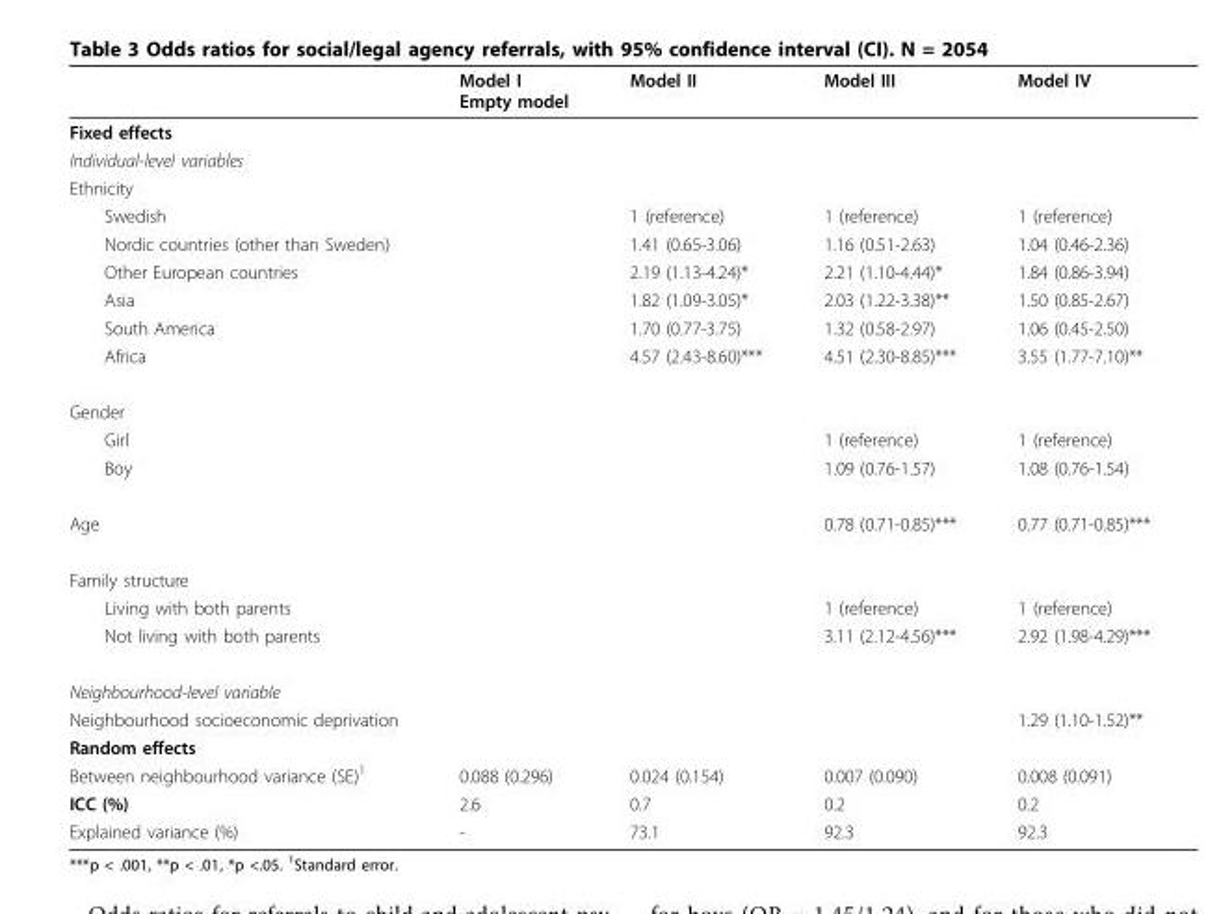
<table><thead><tr><td></td><td>Model I Empty model</td><td>Model II</td><td>Model III</td><td>Model IV</td></tr></thead><tbody><tr><td colspan="5">Fixed effects</td></tr><tr><td colspan="5">Individual-level variables</td></tr><tr><td colspan="5">Ethnicity</td></tr><tr><td>Swedish</td><td></td><td>1 (reference)</td><td>1 (reference)</td><td>1 (reference)</td></tr><tr><td>Nordic countries (other than Sweden)</td><td></td><td>1.41 (0.65-3.06)</td><td>1.16 (0.51-2.63)</td><td>1.04 (0.46-2.36)</td></tr><tr><td>Other European countries</td><td></td><td>2.19 (1.13-4.24)*</td><td>2.21 (1.10-4.44)*</td><td>1.84 (0.86-3.94)</td></tr><tr><td>Asia</td><td></td><td>1.82 (1.09-3.05)*</td><td>2.03 (1.22-3.38)**</td><td>1.50 (0.85-2.67)</td></tr><tr><td>South America</td><td></td><td>1.70 (0.77-3.75)</td><td>1.32 (0.58-2.97)</td><td>1.06 (0.45-2.50)</td></tr><tr><td>Africa</td><td></td><td>4.57 (2.43-8.60)***</td><td>4.51 (2.30-8.85)***</td><td>3.55 (1.77-7.10)**</td></tr><tr><td colspan="5">Gender</td></tr><tr><td>Girl</td><td></td><td></td><td>1 (reference)</td><td>1 (reference)</td></tr><tr><td>Boy</td><td></td><td></td><td>1.09 (0.76-1.57)</td><td>1.08 (0.76-1.54)</td></tr><tr><td>Age</td><td></td><td></td><td>0.78 (0.71-0.85)***</td><td>0.77 (0.71-0.85)***</td></tr><tr><td colspan="5">Family structure</td></tr><tr><td>Living with both parents</td><td></td><td></td><td>1 (reference)</td><td>1 (reference)</td></tr><tr><td>Not living with both parents</td><td></td><td></td><td>3.11 (2.12-4.56)***</td><td>2.92 (1.98-4.29)***</td></tr><tr><td colspan="5">Neighbourhood-level variable</td></tr><tr><td>Neighbourhood socioeconomic deprivation</td><td></td><td></td><td></td><td>1.29 (1.10-1.52)**</td></tr><tr><td colspan="5">Random effects</td></tr><tr><td>Between neighbourhood variance (SE)<sup>1</sup></td><td>0.088 (0.296)</td><td>0.024 (0.154)</td><td>0.007 (0.090)</td><td>0.008 (0.091)</td></tr><tr><td>ICC (%)</td><td>2.6</td><td>0.7</td><td>0.2</td><td>0.2</td></tr><tr><td>Explained variance (%)</td><td>-</td><td>73.1</td><td>92.3</td><td>92.3</td></tr></tbody></table>